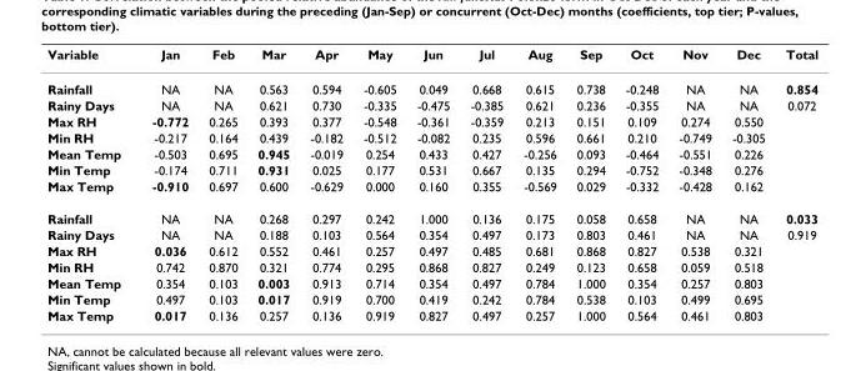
<table><thead><tr><td>Variable</td><td>Jan</td><td>Feb</td><td>Mar</td><td>Apr</td><td>May</td><td>Jun</td><td>Jul</td><td>Aug</td><td>Sep</td><td>Oct</td><td>Nov</td><td>Dec</td><td>Total</td></tr></thead><tbody><tr><td>Rainfall</td><td>NA</td><td>NA</td><td>0.563</td><td>0.594</td><td>-0.605</td><td>0.049</td><td>0.668</td><td>0.615</td><td>0.738</td><td>-0.248</td><td>NA</td><td>NA</td><td>0.854</td></tr><tr><td>Rainy Days</td><td>NA</td><td>NA</td><td>0.621</td><td>0.730</td><td>-0.335</td><td>-0.475</td><td>-0.385</td><td>0.621</td><td>0.236</td><td>-0.355</td><td>NA</td><td>NA</td><td>0.072</td></tr><tr><td>Max RH</td><td>-0.772</td><td>0.265</td><td>0.393</td><td>0.377</td><td>-0.548</td><td>-0.361</td><td>-0.359</td><td>0.213</td><td>0.151</td><td>0.109</td><td>0.274</td><td>0.550</td><td></td></tr><tr><td>Min RH</td><td>-0.217</td><td>0.164</td><td>0.439</td><td>-0.182</td><td>-0.512</td><td>-0.082</td><td>0.235</td><td>0.596</td><td>0.661</td><td>0.210</td><td>-0.749</td><td>-0.305</td><td></td></tr><tr><td>Mean Temp</td><td>-0.503</td><td>0.695</td><td>0.945</td><td>-0.019</td><td>0.254</td><td>0.433</td><td>0.427</td><td>-0.256</td><td>0.093</td><td>-0.464</td><td>-0.551</td><td>0.226</td><td></td></tr><tr><td>Min Temp</td><td>-0.174</td><td>0.711</td><td>0.931</td><td>0.025</td><td>0.177</td><td>0.531</td><td>0.667</td><td>0.135</td><td>0.294</td><td>-0.752</td><td>-0.348</td><td>0.276</td><td></td></tr><tr><td>Max Temp</td><td>-0.910</td><td>0.697</td><td>0.600</td><td>-0.629</td><td>0.000</td><td>0.160</td><td>0.355</td><td>-0.569</td><td>0.029</td><td>-0.332</td><td>-0.428</td><td>0.162</td><td></td></tr><tr><td>Rainfall</td><td>NA</td><td>NA</td><td>0.268</td><td>0.297</td><td>0.242</td><td>1.000</td><td>0.136</td><td>0.175</td><td>0.058</td><td>0.658</td><td>NA</td><td>NA</td><td>0.033</td></tr><tr><td>Rainy Days</td><td>NA</td><td>NA</td><td>0.188</td><td>0.103</td><td>0.564</td><td>0.354</td><td>0.497</td><td>0.173</td><td>0.803</td><td>0.461</td><td>NA</td><td>NA</td><td>0.919</td></tr><tr><td>Max RH</td><td>0.036</td><td>0.612</td><td>0.552</td><td>0.461</td><td>0.257</td><td>0.497</td><td>0.485</td><td>0.681</td><td>0.868</td><td>0.827</td><td>0.538</td><td>0.321</td><td></td></tr><tr><td>Min RH</td><td>0.742</td><td>0.870</td><td>0.321</td><td>0.774</td><td>0.295</td><td>0.868</td><td>0.827</td><td>0.249</td><td>0.123</td><td>0.658</td><td>0.059</td><td>0.518</td><td></td></tr><tr><td>Mean Temp</td><td>0.354</td><td>0.103</td><td>0.003</td><td>0.913</td><td>0.714</td><td>0.354</td><td>0.497</td><td>0.784</td><td>1.000</td><td>0.354</td><td>0.257</td><td>0.803</td><td></td></tr><tr><td>Min Temp</td><td>0.497</td><td>0.103</td><td>0.017</td><td>0.919</td><td>0.700</td><td>0.419</td><td>0.242</td><td>0.784</td><td>0.538</td><td>0.103</td><td>0.499</td><td>0.695</td><td></td></tr><tr><td>Max Temp</td><td>0.017</td><td>0.136</td><td>0.257</td><td>0.136</td><td>0.919</td><td>0.827</td><td>0.497</td><td>0.257</td><td>1.000</td><td>0.564</td><td>0.461</td><td>0.803</td><td></td></tr></tbody></table>